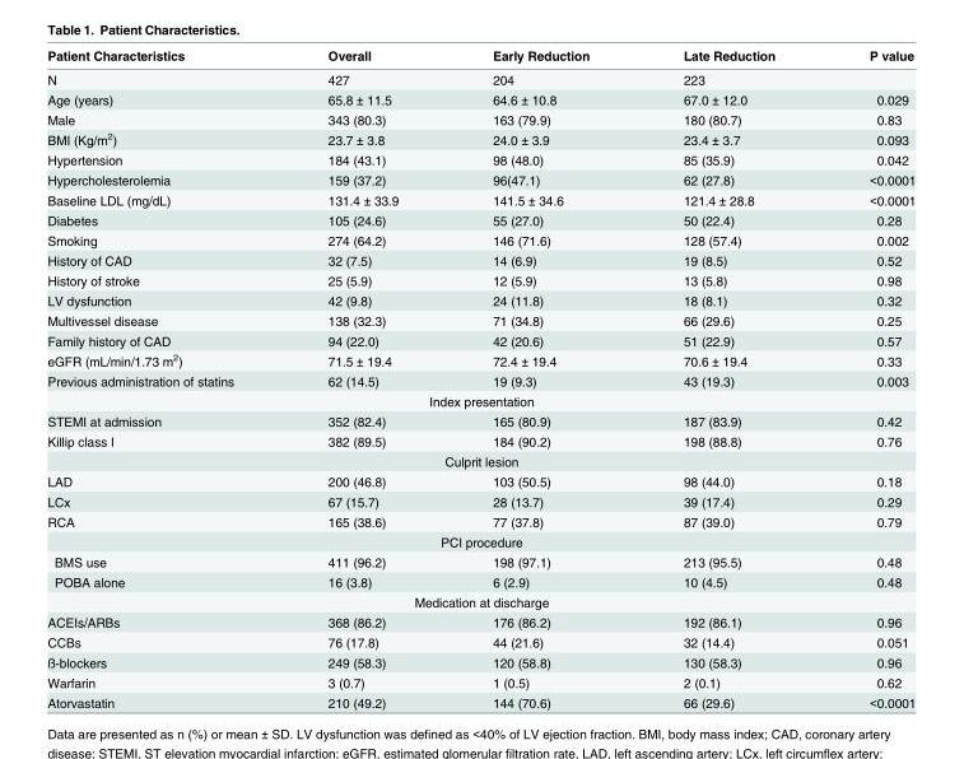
<table><thead><tr><td>Patient Characteristics</td><td>Overall</td><td>Early Reduction</td><td>Late Reduction</td><td>P value</td></tr></thead><tbody><tr><td>N</td><td>427</td><td>204</td><td>223</td><td></td></tr><tr><td>Age (years)</td><td>65.8 ± 11.5</td><td>64.6 ± 10.8</td><td>67.0 ± 12.0</td><td>0.029</td></tr><tr><td>Male</td><td>343 (80.3)</td><td>163 (79.9)</td><td>180 (80.7)</td><td>0.83</td></tr><tr><td>BMI (Kg/m<sup>2</sup>)</td><td>23.7 ± 3.8</td><td>24.0 ± 3.9</td><td>23.4 ± 3.7</td><td>0.093</td></tr><tr><td>Hypertension</td><td>184 (43.1)</td><td>98 (48.0)</td><td>85 (35.9)</td><td>0.042</td></tr><tr><td>Hypercholesterolemia</td><td>159 (37.2)</td><td>96(47.1)</td><td>62 (27.8)</td><td>&lt;0.0001</td></tr><tr><td>Baseline LDL (mg/dL)</td><td>131.4 ± 33.9</td><td>141.5 ± 34.6</td><td>121.4 ± 28.8</td><td>&lt;0.0001</td></tr><tr><td>Diabetes</td><td>105 (24.6)</td><td>55 (27.0)</td><td>50 (22.4)</td><td>0.28</td></tr><tr><td>Smoking</td><td>274 (64.2)</td><td>146 (71.6)</td><td>128 (57.4)</td><td>0.002</td></tr><tr><td>History of CAD</td><td>32 (7.5)</td><td>14 (6.9)</td><td>19 (8.5)</td><td>0.52</td></tr><tr><td>History of stroke</td><td>25 (5.9)</td><td>12 (5.9)</td><td>13 (5.8)</td><td>0.98</td></tr><tr><td>LV dysfunction</td><td>42 (9.8)</td><td>24 (11.8)</td><td>18 (8.1)</td><td>0.32</td></tr><tr><td>Multivessel disease</td><td>138 (32.3)</td><td>71 (34.8)</td><td>66 (29.6)</td><td>0.25</td></tr><tr><td>Family history of CAD</td><td>94 (22.0)</td><td>42 (20.6)</td><td>51 (22.9)</td><td>0.57</td></tr><tr><td>eGFR (mL/min/1.73 m<sup>2</sup>)</td><td>71.5 ± 19.4</td><td>72.4 ± 19.4</td><td>70.6 ± 19.4</td><td>0.33</td></tr><tr><td>Previous administration of statins</td><td>62 (14.5)</td><td>19 (9.3)</td><td>43 (19.3)</td><td>0.003</td></tr><tr><td colspan="5">Index presentation</td></tr><tr><td>STEMI at admission</td><td>352 (82.4)</td><td>165 (80.9)</td><td>187 (83.9)</td><td>0.42</td></tr><tr><td>Killip class Ⅰ</td><td>382 (89.5)</td><td>184 (90.2)</td><td>198 (88.8)</td><td>0.76</td></tr><tr><td colspan="5">Culprit lesion</td></tr><tr><td>LAD</td><td>200 (46.8)</td><td>103 (50.5)</td><td>98 (44.0)</td><td>0.18</td></tr><tr><td>LCx</td><td>67 (15.7)</td><td>28 (13.7)</td><td>39 (17.4)</td><td>0.29</td></tr><tr><td>RCA</td><td>165 (38.6)</td><td>77 (37.8)</td><td>87 (39.0)</td><td>0.79</td></tr><tr><td colspan="5">PCI procedure</td></tr><tr><td>BMS use</td><td>411 (96.2)</td><td>198 (97.1)</td><td>213 (95.5)</td><td>0.48</td></tr><tr><td>POBA alone</td><td>16 (3.8)</td><td>6 (2.9)</td><td>10 (4.5)</td><td>0.48</td></tr><tr><td colspan="5">Medication at discharge</td></tr><tr><td>ACEIs/ARBs</td><td>368 (86.2)</td><td>176 (86.2)</td><td>192 (86.1)</td><td>0.96</td></tr><tr><td>CCBs</td><td>76 (17.8)</td><td>44 (21.6)</td><td>32 (14.4)</td><td>0.051</td></tr><tr><td>ß-blockers</td><td>249 (58.3)</td><td>120 (58.8)</td><td>130 (58.3)</td><td>0.96</td></tr><tr><td>Warfarin</td><td>3 (0.7)</td><td>1 (0.5)</td><td>2 (0.1)</td><td>0.62</td></tr><tr><td>Atorvastatin</td><td>210 (49.2)</td><td>144 (70.6)</td><td>66 (29.6)</td><td>&lt;0.0001</td></tr></tbody></table>